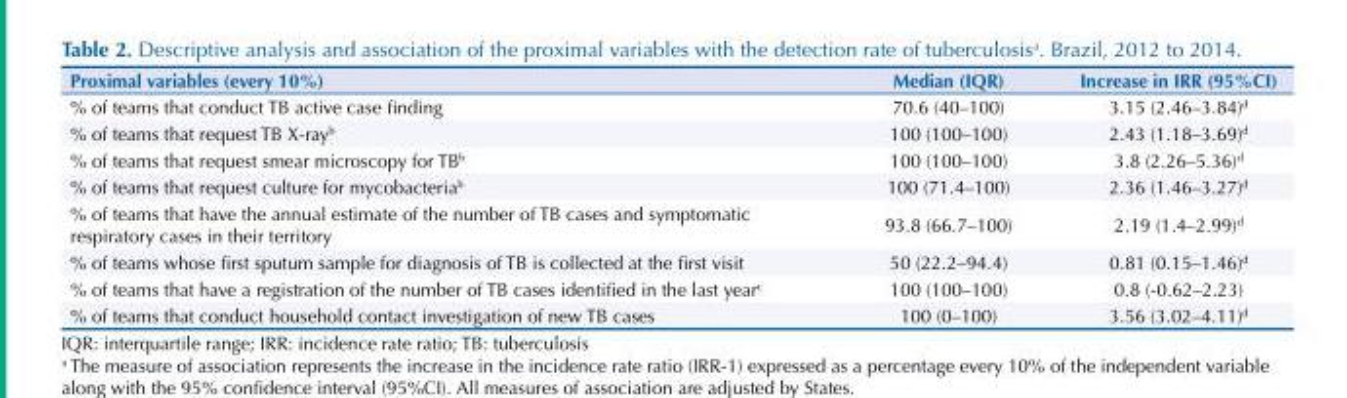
<table><thead><tr><td>Proximal variables (every 10%)</td><td>Median (IQR)</td><td>Increase in IRR (95%CI)</td></tr></thead><tbody><tr><td>% of teams that conduct TB active case finding</td><td>70.6 (40–100)</td><td>3.15 (2.46–3.84)<sup>d</sup></td></tr><tr><td>% of teams that request TB X-ray<sup>b</sup></td><td>100 (100–100)</td><td>2.43 (1.18–3.69)<sup>d</sup></td></tr><tr><td>% of teams that request smear microscopy for TB<sup>b</sup></td><td>100 (100–100)</td><td>3.8 (2.26–5.36)<sup>d</sup></td></tr><tr><td>% of teams that request culture for mycobacteria<sup>b</sup></td><td>100 (71.4–100)</td><td>2.36 (1.46–3.27)<sup>d</sup></td></tr><tr><td>% of teams that have the annual estimate of the number of TB cases and symptomatic respiratory cases in their territory</td><td>93.8 (66.7–100)</td><td>2.19 (1.4–2.99)<sup>d</sup></td></tr><tr><td>% of teams whose first sputum sample for diagnosis of TB is collected at the first visit</td><td>50 (22.2–94.4)</td><td>0.81 (0.15–1.46)<sup>d</sup></td></tr><tr><td>% of teams that have a registration of the number of TB cases identified in the last year<sup>c</sup></td><td>100 (100–100)</td><td>0.8 (-0.62–2.23)</td></tr><tr><td>% of teams that conduct household contact investigation of new TB cases</td><td>100 (0–100)</td><td>3.56 (3.02–4.11)<sup>d</sup></td></tr></tbody></table>